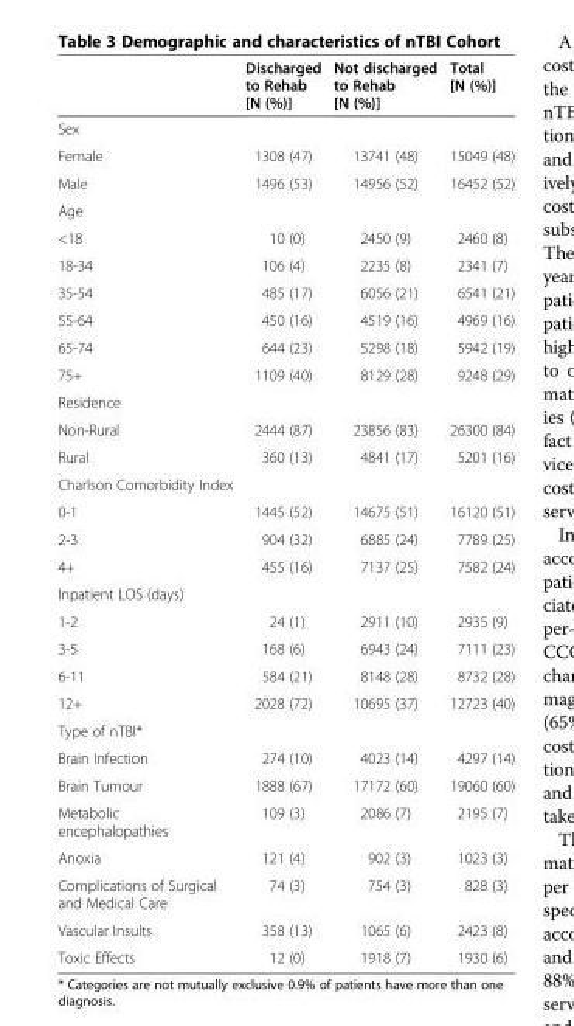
<table><thead><tr><td></td><td>Discharged to Rehab [N (%)]</td><td>Not discharged to Rehab [N (%)]</td><td>Total [N (%)]</td></tr></thead><tbody><tr><td colspan="4">Sex</td></tr><tr><td>Female</td><td>1308 (47)</td><td>13741 (48)</td><td>15049 (48)</td></tr><tr><td>Male</td><td>1496 (53)</td><td>14956 (52)</td><td>16452 (52)</td></tr><tr><td colspan="4">Age</td></tr><tr><td>&lt;18</td><td>10 (0)</td><td>2450 (9)</td><td>2460 (8)</td></tr><tr><td>18-34</td><td>106 (4)</td><td>2235 (8)</td><td>2341 (7)</td></tr><tr><td>35-54</td><td>485 (17)</td><td>6056 (21)</td><td>6541 (21)</td></tr><tr><td>55-64</td><td>450 (16)</td><td>4519 (16)</td><td>4969 (16)</td></tr><tr><td>65-74</td><td>644 (23)</td><td>5298 (18)</td><td>5942 (19)</td></tr><tr><td>75+</td><td>1109 (40)</td><td>8129 (28)</td><td>9248 (29)</td></tr><tr><td colspan="4">Residence</td></tr><tr><td>Non-Rural</td><td>2444 (87)</td><td>23856 (83)</td><td>26300 (84)</td></tr><tr><td>Rural</td><td>360 (13)</td><td>4841 (17)</td><td>5201 (16)</td></tr><tr><td colspan="4">Charlson Comorbidity Index</td></tr><tr><td>0-1</td><td>1445 (52)</td><td>14675 (51)</td><td>16120 (51)</td></tr><tr><td>2-3</td><td>904 (32)</td><td>6885 (24)</td><td>7789 (25)</td></tr><tr><td>4+</td><td>455 (16)</td><td>7137 (25)</td><td>7582 (24)</td></tr><tr><td colspan="4">Inpatient LOS (days)</td></tr><tr><td>1-2</td><td>24 (1)</td><td>2911 (10)</td><td>2935 (9)</td></tr><tr><td>3-5</td><td>168 (6)</td><td>6943 (24)</td><td>7111 (23)</td></tr><tr><td>6-11</td><td>584 (21)</td><td>8148 (28)</td><td>8732 (28)</td></tr><tr><td>12+</td><td>2028 (72)</td><td>10695 (37)</td><td>12723 (40)</td></tr><tr><td colspan="4">Type of nTBI*</td></tr><tr><td>Brain Infection</td><td>274 (10)</td><td>4023 (14)</td><td>4297 (14)</td></tr><tr><td>Brain Tumour</td><td>1888 (67)</td><td>17172 (60)</td><td>19060 (60)</td></tr><tr><td>Metabolic encephalopathies</td><td>109 (3)</td><td>2086 (7)</td><td>2195 (7)</td></tr><tr><td>Anoxia</td><td>121 (4)</td><td>902 (3)</td><td>1023 (3)</td></tr><tr><td>Complications of Surgical and Medical Care</td><td>74 (3)</td><td>754 (3)</td><td>828 (3)</td></tr><tr><td>Vascular Insults</td><td>358 (13)</td><td>1065 (6)</td><td>2423 (8)</td></tr><tr><td>Toxic Effects</td><td>12 (0)</td><td>1918 (7)</td><td>1930 (6)</td></tr></tbody></table>